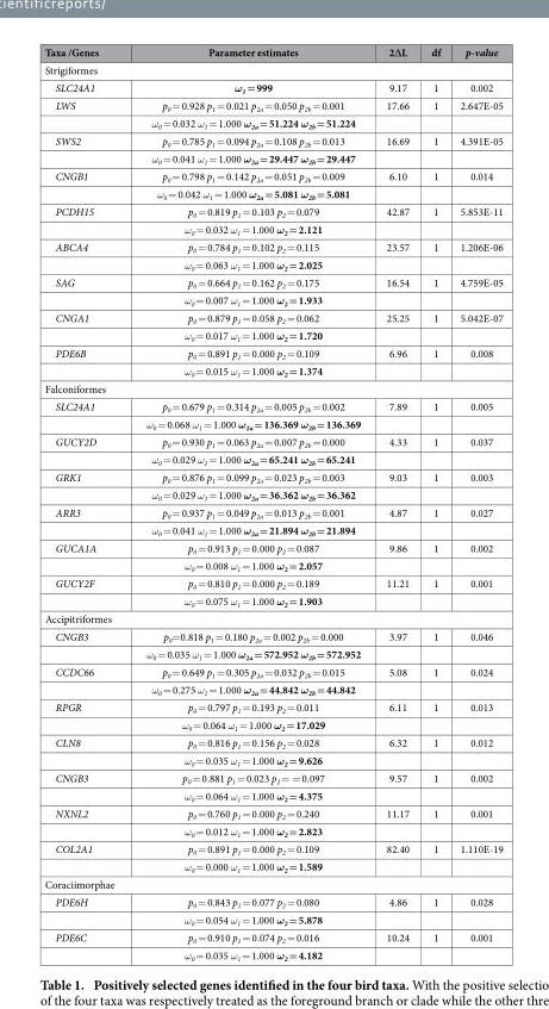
<table><thead><tr><td>Taxa /Genes</td><td>Parameter estimates</td><td>2∆L</td><td>df</td><td>p-value</td></tr></thead><tbody><tr><td colspan="5">Strigiformes</td></tr><tr><td>SLC24A1</td><td>ω<sub>1</sub> = 999</td><td>9.17</td><td>1</td><td>0.002</td></tr><tr><td rowspan="2">LWS</td><td>p<sub>0</sub> = 0.928 p<sub>1</sub> = 0.021 p<sub>2a</sub> = 0.050 p<sub>2b</sub> = 0.001</td><td>17.66</td><td>1</td><td>2.647E-05</td></tr><tr><td>ω<sub>0</sub> = 0.032 ω<sub>1</sub> = 1.000 ω<sub>2a</sub> = 51.224 ω<sub>2b</sub> = 51.224</td><td></td><td></td><td></td></tr><tr><td rowspan="2">SWS2</td><td>p<sub>0</sub> = 0.785 p<sub>1</sub> = 0.094 p<sub>2a</sub> = 0.108 p<sub>2b</sub> = 0.013</td><td>16.69</td><td>1</td><td>4.391E-05</td></tr><tr><td>ω<sub>0</sub> = 0.041 ω<sub>1</sub> = 1.000 ω<sub>2a</sub> = 29.447 ω<sub>2b</sub> = 29.447</td><td></td><td></td><td></td></tr><tr><td rowspan="2">CNGB1</td><td>p<sub>0</sub> = 0.798 p<sub>1</sub> = 0.142 p<sub>2a</sub> = 0.051 p<sub>2b</sub> = 0.009</td><td>6.10</td><td>1</td><td>0.014</td></tr><tr><td>ω<sub>0</sub> = 0.042 ω<sub>1</sub> = 1.000 ω<sub>2a</sub> = 5.081 ω<sub>2b</sub> = 5.081</td><td></td><td></td><td></td></tr><tr><td rowspan="2">PCDH15</td><td>p<sub>0</sub> = 0.819 p<sub>1</sub> = 0.103 p<sub>2</sub> = 0.079</td><td>42.87</td><td>1</td><td>5.853E-11</td></tr><tr><td>ω<sub>0</sub> = 0.032 ω<sub>1</sub> = 1.000 ω<sub>2</sub> = 2.121</td><td></td><td></td><td></td></tr><tr><td rowspan="2">ABCA4</td><td>p<sub>0</sub> = 0.784 p<sub>1</sub> = 0.102 p<sub>2</sub> = 0.115</td><td>23.57</td><td>1</td><td>1.206E-06</td></tr><tr><td>ω<sub>0</sub> = 0.063 ω<sub>1</sub> = 1.000 ω<sub>2</sub> = 2.025</td><td></td><td></td><td></td></tr><tr><td rowspan="2">SAG</td><td>p<sub>0</sub> = 0.664 p<sub>1</sub> = 0.162 p<sub>2</sub> = 0.175</td><td>16.54</td><td>1</td><td>4.759E-05</td></tr><tr><td>ω<sub>0</sub> = 0.007 ω<sub>1</sub> = 1.000 ω<sub>2</sub> = 1.933</td><td></td><td></td><td></td></tr><tr><td rowspan="2">CNGA1</td><td>p<sub>0</sub> = 0.879 p<sub>1</sub> = 0.058 p<sub>2</sub> = 0.062</td><td>25.25</td><td>1</td><td>5.042E-07</td></tr><tr><td>ω<sub>0</sub> = 0.017 ω<sub>1</sub> = 1.000 ω<sub>2</sub> = 1.720</td><td></td><td></td><td></td></tr><tr><td rowspan="2">PDE6B</td><td>p<sub>0</sub> = 0.891 p<sub>1</sub> = 0.000 p<sub>2</sub> = 0.109</td><td>6.96</td><td>1</td><td>0.008</td></tr><tr><td>ω<sub>0</sub> = 0.015 ω<sub>1</sub> = 1.000 ω<sub>2</sub> = 1.374</td><td></td><td></td><td></td></tr><tr><td colspan="5">Falconiformes</td></tr><tr><td rowspan="2">SLC24A1</td><td>p<sub>0</sub> = 0.679 p<sub>1</sub> = 0.314 p<sub>2a</sub> = 0.005 p<sub>2b</sub> = 0.002</td><td>7.89</td><td>1</td><td>0.005</td></tr><tr><td>ω<sub>0</sub> = 0.068 ω<sub>1</sub> = 1.000 ω<sub>2a</sub> = 136.369 ω<sub>2b</sub> = 136.369</td><td></td><td></td><td></td></tr><tr><td rowspan="2">GUCY2D</td><td>p<sub>0</sub> = 0.930 p<sub>1</sub> = 0.063 p<sub>2a</sub> = 0.007 p<sub>2b</sub> = 0.000</td><td>4.33</td><td>1</td><td>0.037</td></tr><tr><td>ω<sub>0</sub> = 0.029 ω<sub>1</sub> = 1.000 ω<sub>2a</sub> = 65.241 ω<sub>2b</sub> = 65.241</td><td></td><td></td><td></td></tr><tr><td rowspan="2">GRK1</td><td>p<sub>0</sub> = 0.876 p<sub>1</sub> = 0.099 p<sub>2a</sub> = 0.023 p<sub>2b</sub> = 0.003</td><td>9.03</td><td>1</td><td>0.003</td></tr><tr><td>ω<sub>0</sub> = 0.029 ω<sub>1</sub> = 1.000 ω<sub>2a</sub> = 36.362 ω<sub>2b</sub> = 36.362</td><td></td><td></td><td></td></tr><tr><td rowspan="2">ARR3</td><td>p<sub>0</sub> = 0.937 p<sub>1</sub> = 0.049 p<sub>2a</sub> = 0.013 p<sub>2b</sub> = 0.001</td><td>4.87</td><td>1</td><td>0.027</td></tr><tr><td>ω<sub>0</sub> = 0.041 ω<sub>1</sub> = 1.000 ω<sub>2a</sub> = 21.894 ω<sub>2b</sub> = 21.894</td><td></td><td></td><td></td></tr><tr><td rowspan="2">GUCA1A</td><td>p<sub>0</sub> = 0.913 p<sub>1</sub> = 0.000 p<sub>2</sub> = 0.087</td><td>9.86</td><td>1</td><td>0.002</td></tr><tr><td>ω<sub>0</sub> = 0.008 ω<sub>1</sub> = 1.000 ω<sub>2</sub> = 2.057</td><td></td><td></td><td></td></tr><tr><td rowspan="2">GUCY2F</td><td>p<sub>0</sub> = 0.810 p<sub>1</sub> = 0.000 p<sub>2</sub> = 0.189</td><td>11.21</td><td>1</td><td>0.001</td></tr><tr><td>ω<sub>0</sub> = 0.075 ω<sub>1</sub> = 1.000 ω<sub>2</sub> = 1.903</td><td></td><td></td><td></td></tr><tr><td colspan="5">Accipitriformes</td></tr><tr><td rowspan="2">CNGB3</td><td>p<sub>0</sub>= 0.818 p<sub>1</sub> = 0.180 p<sub>2a</sub> = 0.002 p<sub>2b</sub> = 0.000</td><td>3.97</td><td>1</td><td>0.046</td></tr><tr><td>ω<sub>0</sub> = 0.035 ω<sub>1</sub> = 1.000 ω<sub>2a</sub> = 572.952 ω<sub>2b</sub> = 572.952</td><td></td><td></td><td></td></tr><tr><td rowspan="2">CCDC66</td><td>p<sub>0</sub> = 0.649 p<sub>1</sub> = 0.305 p<sub>2a</sub> = 0.032 p<sub>2b</sub> = 0.015</td><td>5.08</td><td>1</td><td>0.024</td></tr><tr><td>ω<sub>0</sub> = 0.275 ω<sub>1</sub> = 1.000 ω<sub>2a</sub> = 44.842 ω<sub>2b</sub> = 44.842</td><td></td><td></td><td></td></tr><tr><td rowspan="2">RPGR</td><td>p<sub>0</sub> = 0.797 p<sub>1</sub> = 0.193 p<sub>2</sub> = 0.011</td><td>6.11</td><td>1</td><td>0.013</td></tr><tr><td>ω<sub>0</sub> = 0.064 ω<sub>1</sub> = 1.000 ω<sub>2</sub> = 17.029</td><td></td><td></td><td></td></tr><tr><td rowspan="2">CLN8</td><td>p<sub>0</sub> = 0.816 p<sub>1</sub> = 0.156 p<sub>2</sub> = 0.028</td><td>6.32</td><td>1</td><td>0.012</td></tr><tr><td>ω<sub>0</sub> = 0.035 ω<sub>1</sub> = 1.000 ω<sub>2</sub> = 9.626</td><td></td><td></td><td></td></tr><tr><td rowspan="2">CNGB3</td><td>p<sub>0</sub> = 0.881 p<sub>1</sub> = 0.023 p<sub>2</sub> = = 0.097</td><td>9.57</td><td>1</td><td>0.002</td></tr><tr><td>ω<sub>0</sub> = 0.064 ω<sub>1</sub> = 1.000 ω<sub>2</sub> = 4.375</td><td></td><td></td><td></td></tr><tr><td rowspan="2">NXNL2</td><td>p<sub>0</sub> = 0.760 p<sub>1</sub> = 0.000 p<sub>2</sub> = 0.240</td><td>11.17</td><td>1</td><td>0.001</td></tr><tr><td>ω<sub>0</sub> = 0.012 ω<sub>1</sub> = 1.000 ω<sub>2</sub> = 2.823</td><td></td><td></td><td></td></tr><tr><td rowspan="2">COL2A1</td><td>p<sub>0</sub> = 0.891 p<sub>1</sub> = 0.000 p<sub>2</sub> = 0.109</td><td>82.40</td><td>1</td><td>1.110E-19</td></tr><tr><td>ω<sub>0</sub> = 0.000 ω<sub>1</sub> = 1.000 ω<sub>2</sub> = 1.589</td><td></td><td></td><td></td></tr><tr><td colspan="5">Coraciimorphae</td></tr><tr><td rowspan="2">PDE6H</td><td>p<sub>0</sub> = 0.843 p<sub>1</sub> = 0.077 p<sub>2</sub> = 0.080</td><td>4.86</td><td>1</td><td>0.028</td></tr><tr><td>ω<sub>0</sub> = 0.054 ω<sub>1</sub> = 1.000 ω<sub>2</sub> = 5.878</td><td></td><td></td><td></td></tr><tr><td rowspan="2">PDE6C</td><td>p<sub>0</sub> = 0.910 p<sub>1</sub> = 0.074 p<sub>2</sub> = 0.016</td><td>10.24</td><td>1</td><td>0.001</td></tr><tr><td>ω<sub>0</sub> = 0.035 ω<sub>1</sub> = 1.000 ω<sub>2</sub> = 4.182</td><td></td><td></td><td></td></tr></tbody></table>